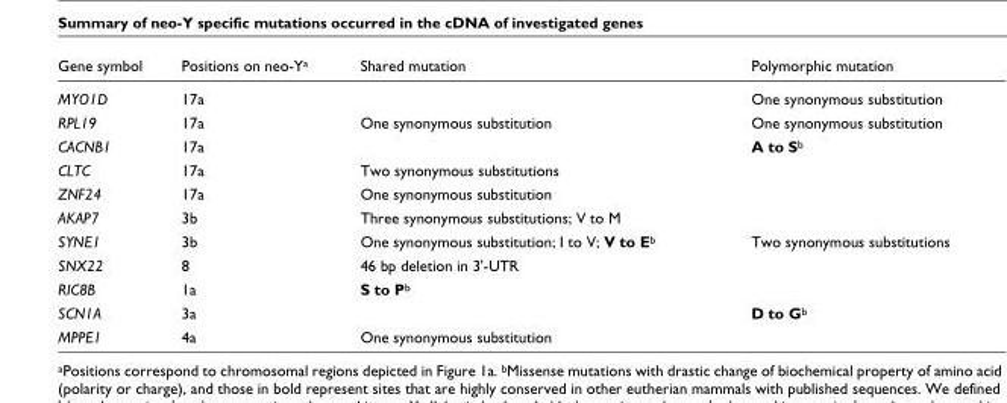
<table><thead><tr><td>Gene symbol</td><td>Positions on neo-Y<sup>a</sup></td><td>Shared mutation</td><td>Polymorphic mutation</td></tr></thead><tbody><tr><td>MYO1D</td><td>17a</td><td></td><td>One synonymous substitution</td></tr><tr><td>RPL19</td><td>17a</td><td>One synonymous substitution</td><td>One synonymous substitution</td></tr><tr><td>CACNB1</td><td>17a</td><td></td><td>A to S<sup>b</sup></td></tr><tr><td>CLTC</td><td>17a</td><td>Two synonymous substitutions</td><td></td></tr><tr><td>ZNF24</td><td>17a</td><td>One synonymous substitution</td><td></td></tr><tr><td>AKAP7</td><td>3b</td><td>Three synonymous substitutions; V to M</td><td></td></tr><tr><td>SYNE1</td><td>3b</td><td>One synonymous substitution; I to V; V to E<sup>b</sup></td><td>Two synonymous substitutions</td></tr><tr><td>SNX22</td><td>8</td><td>46 bp deletion in 3&#x27;-UTR</td><td></td></tr><tr><td>RIC8B</td><td>1a</td><td>S to P<sup>b</sup></td><td></td></tr><tr><td>SCN1A</td><td>3a</td><td></td><td>D to G<sup>b</sup></td></tr><tr><td>MPPE1</td><td>4a</td><td>One synonymous substitution</td><td></td></tr></tbody></table>